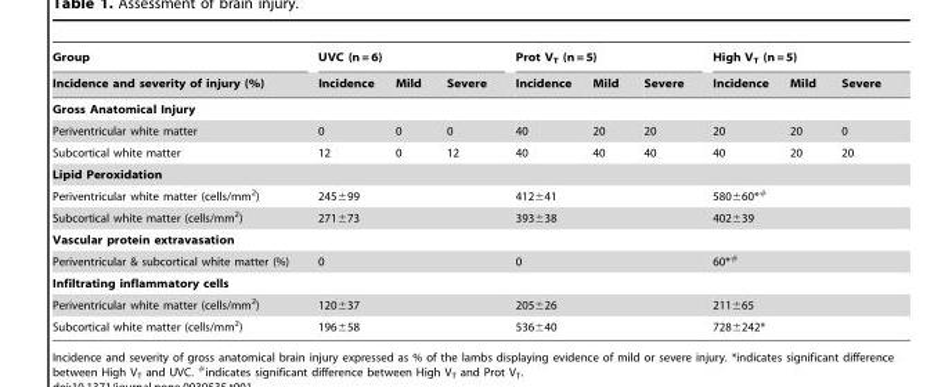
<table><thead><tr><td rowspan="2">Group Incidence and severity of injury (%)</td><td colspan="3">UVC (n = 6)</td><td colspan="3">Prot V<sub>T</sub> (n = 5)</td><td colspan="3">High V<sub>T</sub> (n = 5)</td></tr><tr><td>Incidence</td><td>Mild</td><td>Severe</td><td>Incidence</td><td>Mild</td><td>Severe</td><td>Incidence</td><td>Mild</td><td>Severe</td></tr></thead><tbody><tr><td colspan="10">Gross Anatomical Injury</td></tr><tr><td>Periventricular white matter</td><td>0</td><td>0</td><td>0</td><td>40</td><td>20</td><td>20</td><td>20</td><td>20</td><td>0</td></tr><tr><td>Subcortical white matter</td><td>12</td><td>0</td><td>12</td><td>40</td><td>40</td><td>40</td><td>40</td><td>20</td><td>20</td></tr><tr><td colspan="10">Lipid Peroxidation</td></tr><tr><td>Periventricular white matter (cells/mm<sup>2</sup>)</td><td colspan="3">245±99</td><td colspan="3">412±41</td><td colspan="3">580±60*<sup>#</sup></td></tr><tr><td>Subcortical white matter (cells/mm<sup>2</sup>)</td><td colspan="3">271±73</td><td colspan="3">393±38</td><td colspan="3">402±39</td></tr><tr><td colspan="10">Vascular protein extravasation</td></tr><tr><td>Periventricular &amp; subcortical white matter (%)</td><td colspan="3">0</td><td colspan="3">0</td><td colspan="3">60*<sup>#</sup></td></tr><tr><td colspan="10">Infiltrating inflammatory cells</td></tr><tr><td>Periventricular white matter (cells/mm<sup>2</sup>)</td><td colspan="3">120±37</td><td colspan="3">205±26</td><td colspan="3">211±65</td></tr><tr><td>Subcortical white matter (cells/mm<sup>2</sup>)</td><td colspan="3">196±58</td><td colspan="3">536±40</td><td colspan="3">728±242*</td></tr></tbody></table>